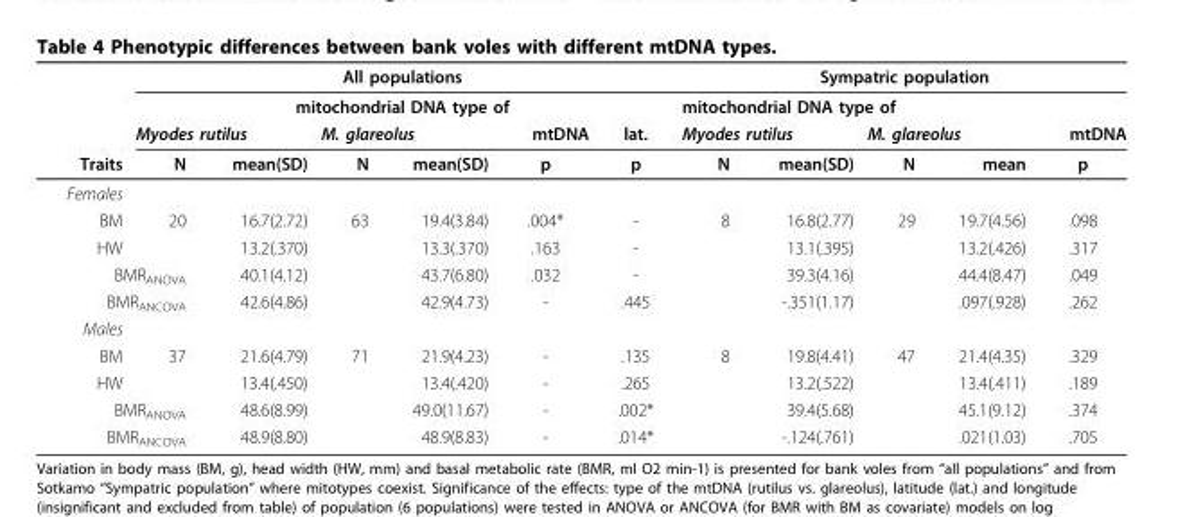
<table><thead><tr><td rowspan="4">Traits</td><td rowspan="2" colspan="6">All populations mitochondrial DNA type of</td><td rowspan="2" colspan="5">Sympatric population mitochondrial DNA type of</td></tr><tr></tr><tr><td colspan="2">Myodes rutilus</td><td colspan="2">M. glareolus</td><td rowspan="2">mtDNA p</td><td rowspan="2">lat. p</td><td colspan="2">Myodes rutilus</td><td colspan="2">M. glareolus</td><td rowspan="2">mtDNA p</td></tr><tr><td>N</td><td>mean(SD)</td><td>N</td><td>mean(SD)</td><td>N</td><td>mean(SD)</td><td>N</td><td>mean</td></tr></thead><tbody><tr><td colspan="12">Females</td></tr><tr><td>BM</td><td>20</td><td>16.7(2.72)</td><td>63</td><td>19.4(3.84)</td><td>.004*</td><td>-</td><td>8</td><td>16.8(2.77)</td><td>29</td><td>19.7(4.56)</td><td>.098</td></tr><tr><td>HW</td><td></td><td>13.2(.370)</td><td></td><td>13.3(.370)</td><td>.163</td><td>-</td><td></td><td>13.1(.395)</td><td></td><td>13.2(.426)</td><td>.317</td></tr><tr><td colspan="2">BMR<sub>ANOVA</sub></td><td>40.1(4.12)</td><td></td><td>43.7(6.80)</td><td>.032</td><td>-</td><td></td><td>39.3(4.16)</td><td></td><td>44.4(8.47)</td><td>.049</td></tr><tr><td colspan="2">BMR<sub>ANCOVA</sub></td><td>42.6(4.86)</td><td></td><td>42.9(4.73)</td><td>-</td><td>.445</td><td></td><td>-.351(1.17)</td><td></td><td>.097(.928)</td><td>.262</td></tr><tr><td colspan="12">Males</td></tr><tr><td>BM</td><td>37</td><td>21.6(4.79)</td><td>71</td><td>21.9(4.23)</td><td>-</td><td>.135</td><td>8</td><td>19.8(4.41)</td><td>47</td><td>21.4(4.35)</td><td>.329</td></tr><tr><td>HW</td><td></td><td>13.4(.450)</td><td></td><td>13.4(.420)</td><td>-</td><td>.265</td><td></td><td>13.2(.522)</td><td></td><td>13.4(.411)</td><td>.189</td></tr><tr><td colspan="2">BMR<sub>ANOVA</sub></td><td>48.6(8.99)</td><td></td><td>49.0(11.67)</td><td>-</td><td>.002*</td><td></td><td>39.4(5.68)</td><td></td><td>45.1(9.12)</td><td>.374</td></tr><tr><td colspan="2">BMR<sub>ANCOVA</sub></td><td>48.9(8.80)</td><td></td><td>48.9(8.83)</td><td>-</td><td>.014*</td><td></td><td>-.124(.761)</td><td></td><td>.021(1.03)</td><td>.705</td></tr></tbody></table>